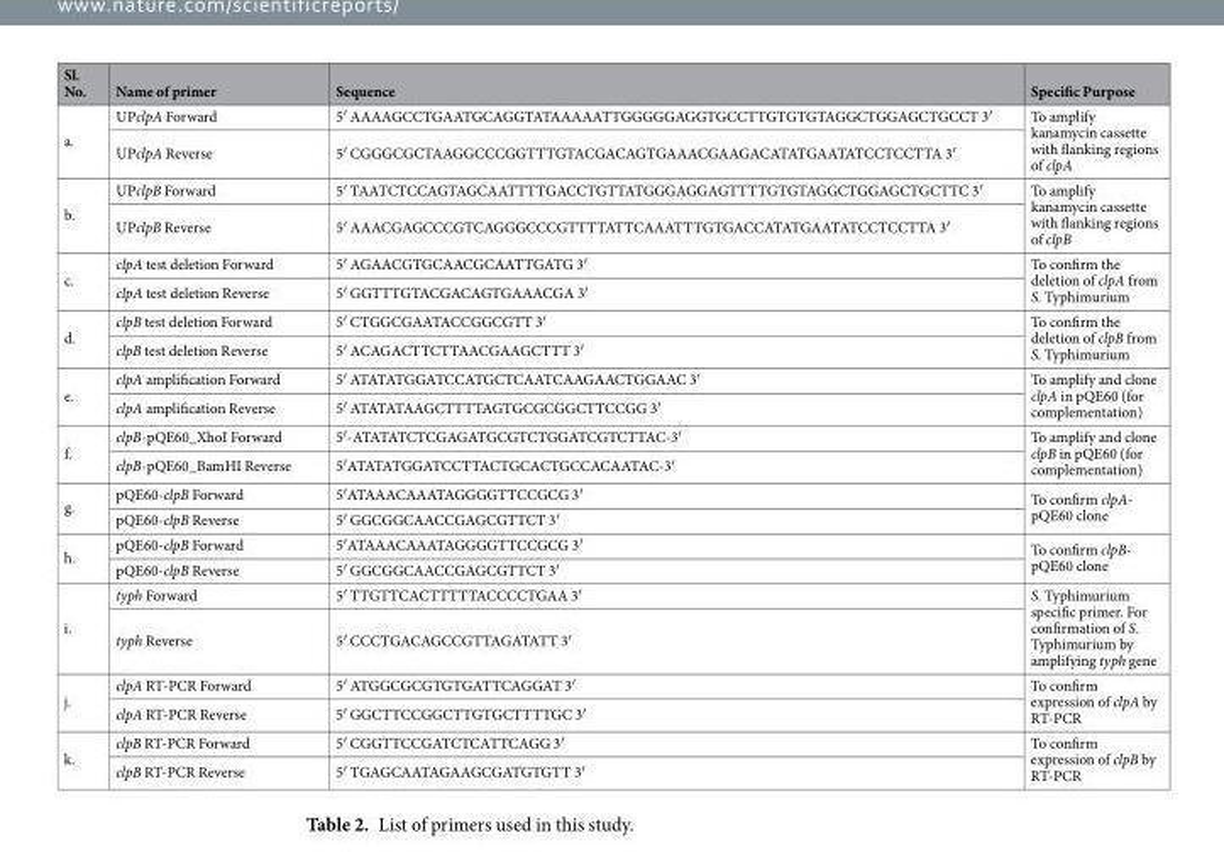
<table><thead><tr><td>Sl. No.</td><td>Name of primer</td><td>Sequence</td><td>Specific Purpose</td></tr></thead><tbody><tr><td rowspan="2">a.</td><td>UPclpA Forward</td><td>5′ AAAAGCCTGAATGCAGGTATAAAAATTGGGGGAGGTGCCTTGTGTGTAGGCTGGAGCTGCCT 3′</td><td rowspan="2">To amplify kanamycin cassette with flanking regions of clpA</td></tr><tr><td>UPclpA Reverse</td><td>5′ CGGGCGCTAAGGCCCGGTTTGTACGACAGTGAAACGAAGACATATGAATATCCTCCTTA 3′</td></tr><tr><td rowspan="2">b.</td><td>UPclpB Forward</td><td>5′ TAATCTCCAGTAGCAATTTTGACCTGTTATGGGAGGAGTTTTGTGTAGGCTGGAGCTGCTTC 3′</td><td rowspan="2">To amplify kanamycin cassette with flanking regions of clpB</td></tr><tr><td>UPclpB Reverse</td><td>5′ AAACGAGCCCGTCAGGGCCCGTTTTATTCAAATTTGTGACCATATGAATATCCTCCTTA 3′</td></tr><tr><td rowspan="2">c.</td><td>clpA test deletion Forward</td><td>5′ AGAACGTGCAACGCAATTGATG 3′</td><td rowspan="2">To confirm the deletion of clpA from S. Typhimurium</td></tr><tr><td>clpA test deletion Reverse</td><td>5′ GGTTTGTACGACAGTGAAACGA 3′</td></tr><tr><td rowspan="2">d.</td><td>clpB test deletion Forward</td><td>5′ CTGGCGAATACCGGCGTT 3′</td><td rowspan="2">To confirm the deletion of clpB from S. Typhimurium</td></tr><tr><td>clpB test deletion Reverse</td><td>5′ ACAGACTTCTTAACGAAGCTTT 3′</td></tr><tr><td rowspan="2">e.</td><td>clpA amplification Forward</td><td>5′ ATATATGGATCCATGCTCAATCAAGAACTGGAAC 3′</td><td rowspan="2">To amplify and clone clpA in pQE60 (for complementation)</td></tr><tr><td>clpA amplification Reverse</td><td>5′ ATATATAAGCTTTTAGTGCGCGGCTTCCGG 3′</td></tr><tr><td rowspan="2">f.</td><td>clpB-pQE60_XhoI Forward</td><td>5′-ATATATCTCGAGATGCGTCTGGATCGTCTTAC-3′</td><td rowspan="2">To amplify and clone clpB in pQE60 (for complementation)</td></tr><tr><td>clpB-pQE60_BamHI Reverse</td><td>5′ATATATGGATCCTTACTGCACTGCCACAATAC-3′</td></tr><tr><td rowspan="2">g.</td><td>pQE60-clpB Forward</td><td>5′ATAAACAAATAGGGGTTCCGCG 3′</td><td rowspan="2">To confirm clpA- pQE60 clone</td></tr><tr><td>pQE60-clpB Reverse</td><td>5′ GGCGGCAACCGAGCGTTCT 3′</td></tr><tr><td rowspan="2">h.</td><td>pQE60-clpB Forward</td><td>5′ATAAACAAATAGGGGTTCCGCG 3′</td><td rowspan="2">To confirm clpB- pQE60 clone</td></tr><tr><td>pQE60-clpB Reverse</td><td>5′ GGCGGCAACCGAGCGTTCT 3′</td></tr><tr><td rowspan="2">i.</td><td>typh Forward</td><td>5′ TTGTTCACTTTTTACCCCTGAA 3′</td><td rowspan="2">S. Typhimurium specific primer. For confirmation of S. Typhimurium by amplifying typh gene</td></tr><tr><td>typh Reverse</td><td>5′ CCCTGACAGCCGTTAGATATT 3′</td></tr><tr><td rowspan="2">j.</td><td>clpA RT-PCR Forward</td><td>5′ ATGGCGCGTGTGATTCAGGAT 3′</td><td rowspan="2">To confirm expression of clpA by RT-PCR</td></tr><tr><td>clpA RT-PCR Reverse</td><td>5′ GGCTTCCGGCTTGTGCTTTTGC 3′</td></tr><tr><td rowspan="2">k.</td><td>clpB RT-PCR Forward</td><td>5′ CGGTTCCGATCTCATTCAGG 3′</td><td rowspan="2">To confirm expression of clpB by RT-PCR</td></tr><tr><td>clpB RT-PCR Reverse</td><td>5′ TGAGCAATAGAAGCGATGTGTT 3′</td></tr></tbody></table>